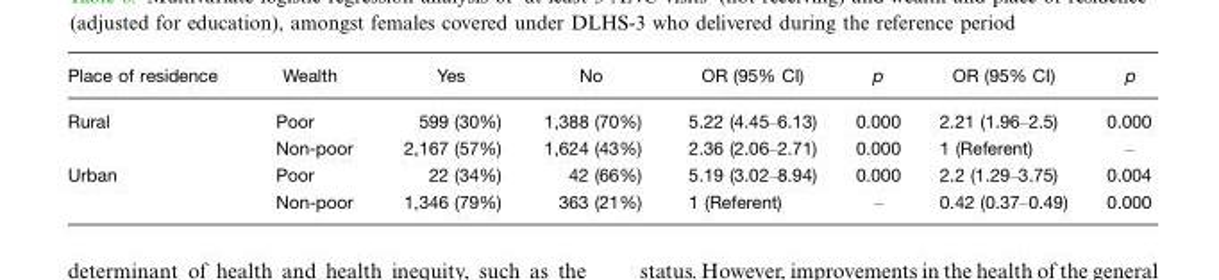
<table><thead><tr><td>Place of residence</td><td>Wealth</td><td>Yes</td><td>No</td><td>OR (95% CI)</td><td>p</td><td>OR (95% CI)</td><td>p</td></tr></thead><tbody><tr><td rowspan="2">Rural</td><td>Poor</td><td>599 (30%)</td><td>1,388 (70%)</td><td>5.22 (4.45–6.13)</td><td>0.000</td><td>2.21 (1.96–2.5)</td><td>0.000</td></tr><tr><td>Non-poor</td><td>2,167 (57%)</td><td>1,624 (43%)</td><td>2.36 (2.06–2.71)</td><td>0.000</td><td>1 (Referent)</td><td>–</td></tr><tr><td rowspan="2">Urban</td><td>Poor</td><td>22 (34%)</td><td>42 (66%)</td><td>5.19 (3.02–8.94)</td><td>0.000</td><td>2.2 (1.29–3.75)</td><td>0.004</td></tr><tr><td>Non-poor</td><td>1,346 (79%)</td><td>363 (21%)</td><td>1 (Referent)</td><td>–</td><td>0.42 (0.37–0.49)</td><td>0.000</td></tr></tbody></table>